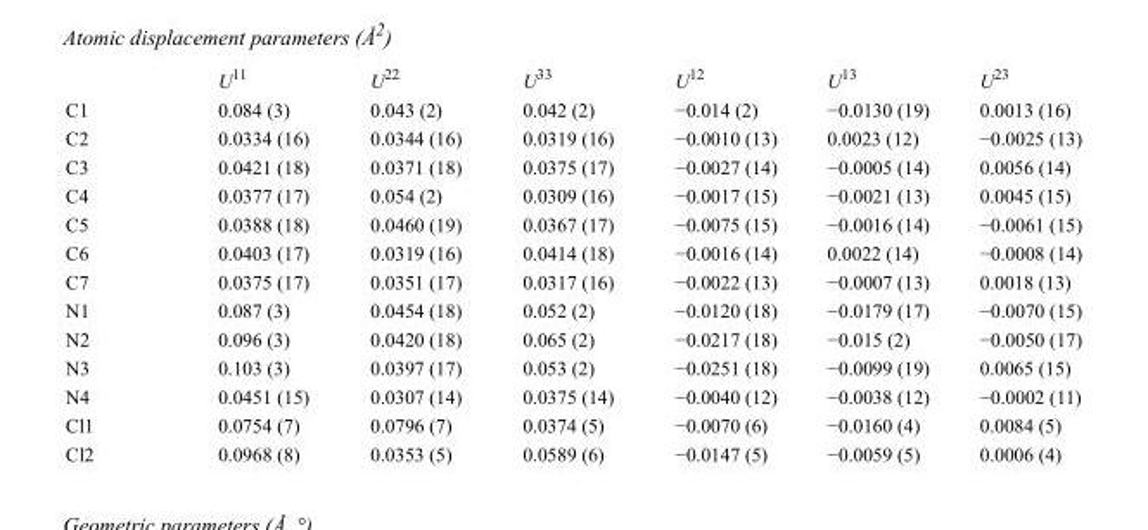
<table><thead><tr><td></td><td>U<sup>11</sup></td><td>U<sup>22</sup></td><td>U<sup>33</sup></td><td>U<sup>12</sup></td><td>U<sup>13</sup></td><td>U<sup>23</sup></td></tr></thead><tbody><tr><td>C1</td><td>0.084 (3)</td><td>0.043 (2)</td><td>0.042 (2)</td><td>−0.014 (2)</td><td>−0.0130 (19)</td><td>0.0013 (16)</td></tr><tr><td>C2</td><td>0.0334 (16)</td><td>0.0344 (16)</td><td>0.0319 (16)</td><td>−0.0010 (13)</td><td>0.0023 (12)</td><td>−0.0025 (13)</td></tr><tr><td>C3</td><td>0.0421 (18)</td><td>0.0371 (18)</td><td>0.0375 (17)</td><td>−0.0027 (14)</td><td>−0.0005 (14)</td><td>0.0056 (14)</td></tr><tr><td>C4</td><td>0.0377 (17)</td><td>0.054 (2)</td><td>0.0309 (16)</td><td>−0.0017 (15)</td><td>−0.0021 (13)</td><td>0.0045 (15)</td></tr><tr><td>C5</td><td>0.0388 (18)</td><td>0.0460 (19)</td><td>0.0367 (17)</td><td>−0.0075 (15)</td><td>−0.0016 (14)</td><td>−0.0061 (15)</td></tr><tr><td>C6</td><td>0.0403 (17)</td><td>0.0319 (16)</td><td>0.0414 (18)</td><td>−0.0016 (14)</td><td>0.0022 (14)</td><td>−0.0008 (14)</td></tr><tr><td>C7</td><td>0.0375 (17)</td><td>0.0351 (17)</td><td>0.0317 (16)</td><td>−0.0022 (13)</td><td>−0.0007 (13)</td><td>0.0018 (13)</td></tr><tr><td>N1</td><td>0.087 (3)</td><td>0.0454 (18)</td><td>0.052 (2)</td><td>−0.0120 (18)</td><td>−0.0179 (17)</td><td>−0.0070 (15)</td></tr><tr><td>N2</td><td>0.096 (3)</td><td>0.0420 (18)</td><td>0.065 (2)</td><td>−0.0217 (18)</td><td>−0.015 (2)</td><td>−0.0050 (17)</td></tr><tr><td>N3</td><td>0.103 (3)</td><td>0.0397 (17)</td><td>0.053 (2)</td><td>−0.0251 (18)</td><td>−0.0099 (19)</td><td>0.0065 (15)</td></tr><tr><td>N4</td><td>0.0451 (15)</td><td>0.0307 (14)</td><td>0.0375 (14)</td><td>−0.0040 (12)</td><td>−0.0038 (12)</td><td>−0.0002 (11)</td></tr><tr><td>Cl1</td><td>0.0754 (7)</td><td>0.0796 (7)</td><td>0.0374 (5)</td><td>−0.0070 (6)</td><td>−0.0160 (4)</td><td>0.0084 (5)</td></tr><tr><td>Cl2</td><td>0.0968 (8)</td><td>0.0353 (5)</td><td>0.0589 (6)</td><td>−0.0147 (5)</td><td>−0.0059 (5)</td><td>0.0006 (4)</td></tr></tbody></table>